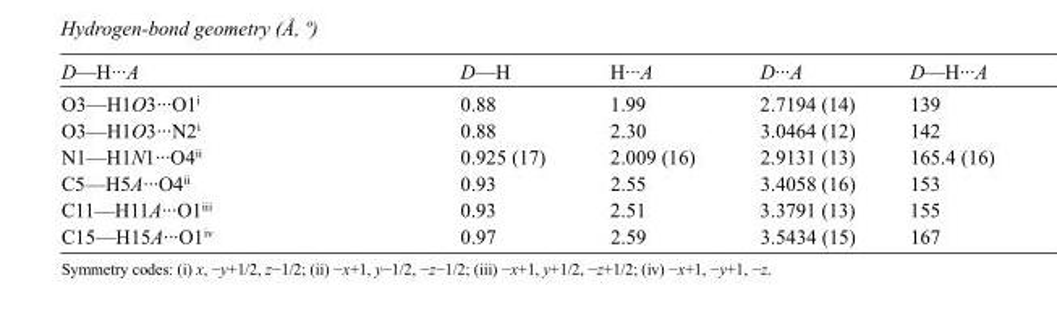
<table><tbody><tr><td>D—H···A</td><td>D—H</td><td>H···A</td><td>D···A</td><td>D—H···A</td></tr><tr><td>O3—H1O3···O1<sup>i</sup></td><td>0.88</td><td>1.99</td><td>2.7194 (14)</td><td>139</td></tr><tr><td>O3—H1O3···N2<sup>i</sup></td><td>0.88</td><td>2.30</td><td>3.0464 (12)</td><td>142</td></tr><tr><td>N1—H1N1···O4<sup>ii</sup></td><td>0.925 (17)</td><td>2.009 (16)</td><td>2.9131 (13)</td><td>165.4 (16)</td></tr><tr><td>C5—H5A···O4<sup>ii</sup></td><td>0.93</td><td>2.55</td><td>3.4058 (16)</td><td>153</td></tr><tr><td>C11—H11A···O1<sup>iii</sup></td><td>0.93</td><td>2.51</td><td>3.3791 (13)</td><td>155</td></tr><tr><td>C15—H15A···O1<sup>iv</sup></td><td>0.97</td><td>2.59</td><td>3.5434 (15)</td><td>167</td></tr></tbody></table>